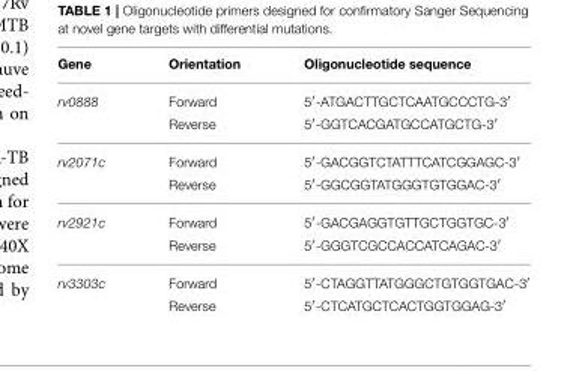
<table><thead><tr><td>Gene</td><td>Orientation</td><td>Oligonucleotide sequence</td></tr></thead><tbody><tr><td rowspan="2">rv0888</td><td>Forward</td><td>5′-ATGACTTGCTCAATGCCCTG-3′</td></tr><tr><td>Reverse</td><td>5′-GGTCACGATGCCATGCTG-3′</td></tr><tr><td rowspan="2">rv2071c</td><td>Forward</td><td>5′-GACGGTCTATTTCATCGGAGC-3′</td></tr><tr><td>Reverse</td><td>5′-GGCGGTATGGGTGTGGAC-3′</td></tr><tr><td rowspan="2">rv2921c</td><td>Forward</td><td>5′-GACGAGGTGTTGCTGGTGC-3′</td></tr><tr><td>Reverse</td><td>5′-GGGTCGCCACCATCAGAC-3′</td></tr><tr><td rowspan="2">rv3303c</td><td>Forward</td><td>5′-CTAGGTTATGGGCTGTGGTGAC-3′</td></tr><tr><td>Reverse</td><td>5′-CTCATGCTCACTGGTGGAG-3′</td></tr></tbody></table>